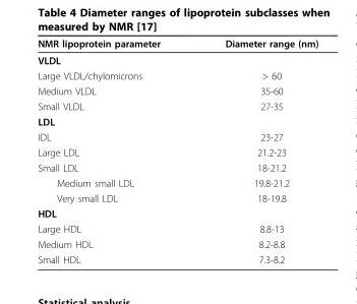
<table><thead><tr><td>NMR lipoprotein parameter</td><td>Diameter range (nm)</td></tr></thead><tbody><tr><td colspan="2">VLDL</td></tr><tr><td>Large VLDL/chylomicrons</td><td>&gt; 60</td></tr><tr><td>Medium VLDL</td><td>35-60</td></tr><tr><td>Small VLDL</td><td>27-35</td></tr><tr><td colspan="2">LDL</td></tr><tr><td>IDL</td><td>23-27</td></tr><tr><td>Large LDL</td><td>21.2-23</td></tr><tr><td>Small LDL</td><td>18-21.2</td></tr><tr><td>Medium small LDL</td><td>19.8-21.2</td></tr><tr><td>Very small LDL</td><td>18-19.8</td></tr><tr><td colspan="2">HDL</td></tr><tr><td>Large HDL</td><td>8.8-13</td></tr><tr><td>Medium HDL</td><td>8.2-8.8</td></tr><tr><td>Small HDL</td><td>7.3-8.2</td></tr></tbody></table>